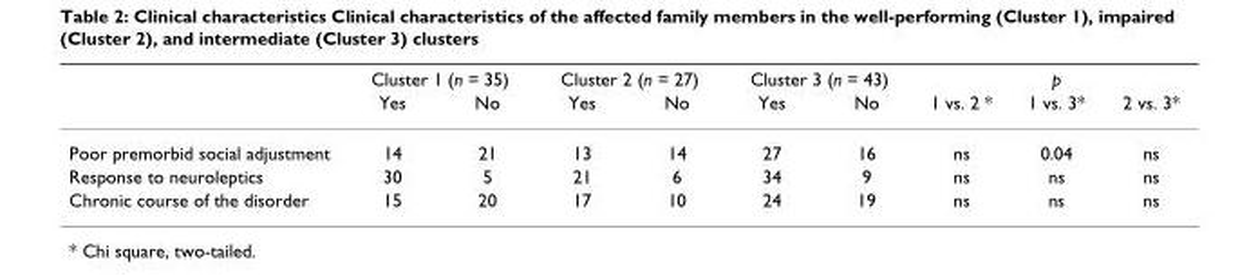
<table><thead><tr><td rowspan="2"></td><td colspan="2">Cluster 1 (n = 35)</td><td colspan="2">Cluster 2 (n = 27)</td><td colspan="2">Cluster 3 (n = 43)</td><td colspan="3">p</td></tr><tr><td>Yes</td><td>No</td><td>Yes</td><td>No</td><td>Yes</td><td>No</td><td>1 vs. 2 *</td><td>1 vs. 3*</td><td>2 vs. 3*</td></tr></thead><tbody><tr><td>Poor premorbid social adjustment</td><td>14</td><td>21</td><td>13</td><td>14</td><td>27</td><td>16</td><td>ns</td><td>0.04</td><td>ns</td></tr><tr><td>Response to neuroleptics</td><td>30</td><td>5</td><td>21</td><td>6</td><td>34</td><td>9</td><td>ns</td><td>ns</td><td>ns</td></tr><tr><td>Chronic course of the disorder</td><td>15</td><td>20</td><td>17</td><td>10</td><td>24</td><td>19</td><td>ns</td><td>ns</td><td>ns</td></tr></tbody></table>